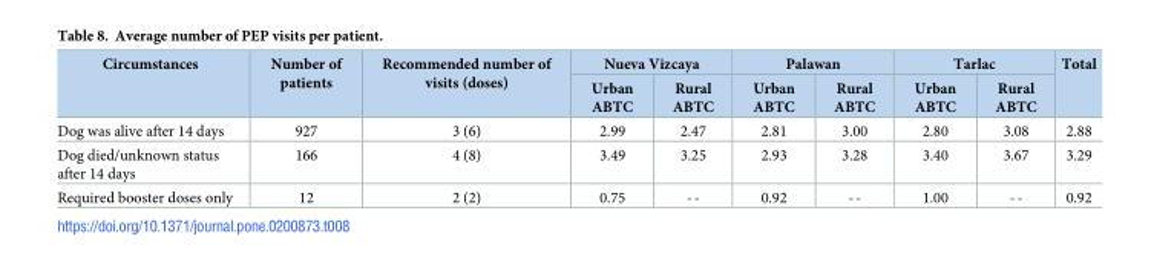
<table><thead><tr><td rowspan="2">Circumstances</td><td rowspan="2">Number of patients</td><td rowspan="2">Recommended number of visits (doses)</td><td colspan="2">Nueva Vizcaya</td><td colspan="2">Palawan</td><td colspan="2">Tarlac</td><td rowspan="2">Total</td></tr><tr><td>Urban ABTC</td><td>Rural ABTC</td><td>Urban ABTC</td><td>Rural ABTC</td><td>Urban ABTC</td><td>Rural ABTC</td></tr></thead><tbody><tr><td>Dog was alive after 14 days</td><td>927</td><td>3 (6)</td><td>2.99</td><td>2.47</td><td>2.81</td><td>3.00</td><td>2.80</td><td>3.08</td><td>2.88</td></tr><tr><td>Dog died/unknown status after 14 days</td><td>166</td><td>4 (8)</td><td>3.49</td><td>3.25</td><td>2.93</td><td>3.28</td><td>3.40</td><td>3.67</td><td>3.29</td></tr><tr><td>Required booster doses only</td><td>12</td><td>2 (2)</td><td>0.75</td><td>--</td><td>0.92</td><td>--</td><td>1.00</td><td>--</td><td>0.92</td></tr></tbody></table>